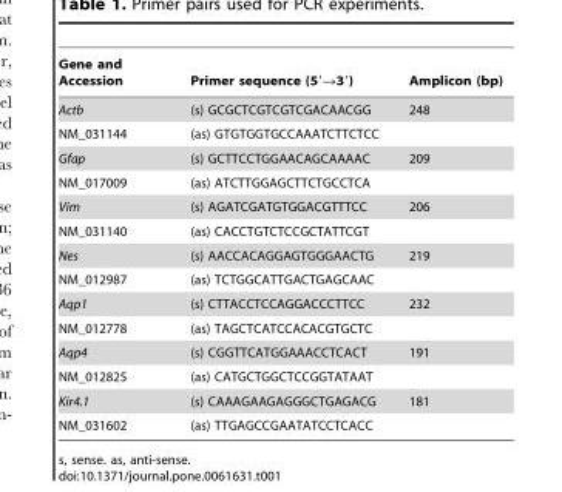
<table><thead><tr><td>Gene and Accession</td><td>Primer sequence (5′→3′)</td><td>Amplicon (bp)</td></tr></thead><tbody><tr><td>Actb</td><td>(s) GCGCTCGTCGTCGACAACGG</td><td>248</td></tr><tr><td>NM_031144</td><td>(as) GTGTGGTGCCAAATCTTCTCC</td><td></td></tr><tr><td>Gfap</td><td>(s) GCTTCCTGGAACAGCAAAAC</td><td>209</td></tr><tr><td>NM_017009</td><td>(as) ATCTTGGAGCTTCTGCCTCA</td><td></td></tr><tr><td>Vim</td><td>(s) AGATCGATGTGGACGTTTCC</td><td>206</td></tr><tr><td>NM_031140</td><td>(as) CACCTGTCTCCGCTATTCGT</td><td></td></tr><tr><td>Nes</td><td>(s) AACCACAGGAGTGGGAACTG</td><td>219</td></tr><tr><td>NM_012987</td><td>(as) TCTGGCATTGACTGAGCAAC</td><td></td></tr><tr><td>Aqp1</td><td>(s) CTTACCTCCAGGACCCTTCC</td><td>232</td></tr><tr><td>NM_012778</td><td>(as) TAGCTCATCCACACGTGCTC</td><td></td></tr><tr><td>Aqp4</td><td>(s) CGGTTCATGGAAACCTCACT</td><td>191</td></tr><tr><td>NM_012825</td><td>(as) CATGCTGGCTCCGGTATAAT</td><td></td></tr><tr><td>Kir4.1</td><td>(s) CAAAGAAGAGGGCTGAGACG</td><td>181</td></tr><tr><td>NM_031602</td><td>(as) TTGAGCCGAATATCCTCACC</td><td></td></tr></tbody></table>